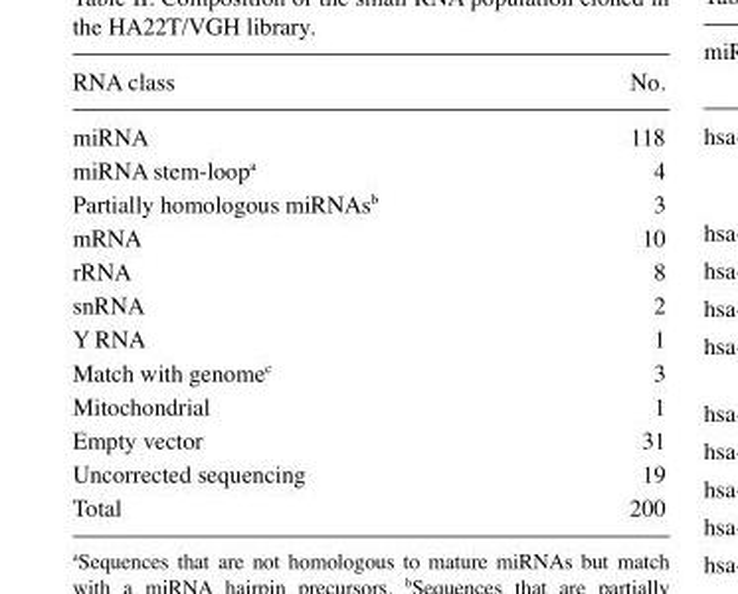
<table><thead><tr><td>RNA class</td><td>No.</td></tr></thead><tbody><tr><td>miRNA</td><td>118</td></tr><tr><td>miRNA stem-loop<sup>a</sup></td><td>4</td></tr><tr><td>Partially homologous miRNAs<sup>b</sup></td><td>3</td></tr><tr><td>mRNA</td><td>10</td></tr><tr><td>rRNA</td><td>8</td></tr><tr><td>snRNA</td><td>2</td></tr><tr><td>Y RNA</td><td>1</td></tr><tr><td>Match with genome<sup>c</sup></td><td>3</td></tr><tr><td>Mitochondrial</td><td>1</td></tr><tr><td>Empty vector</td><td>31</td></tr><tr><td>Uncorrected sequencing</td><td>19</td></tr><tr><td>Total</td><td>200</td></tr></tbody></table>